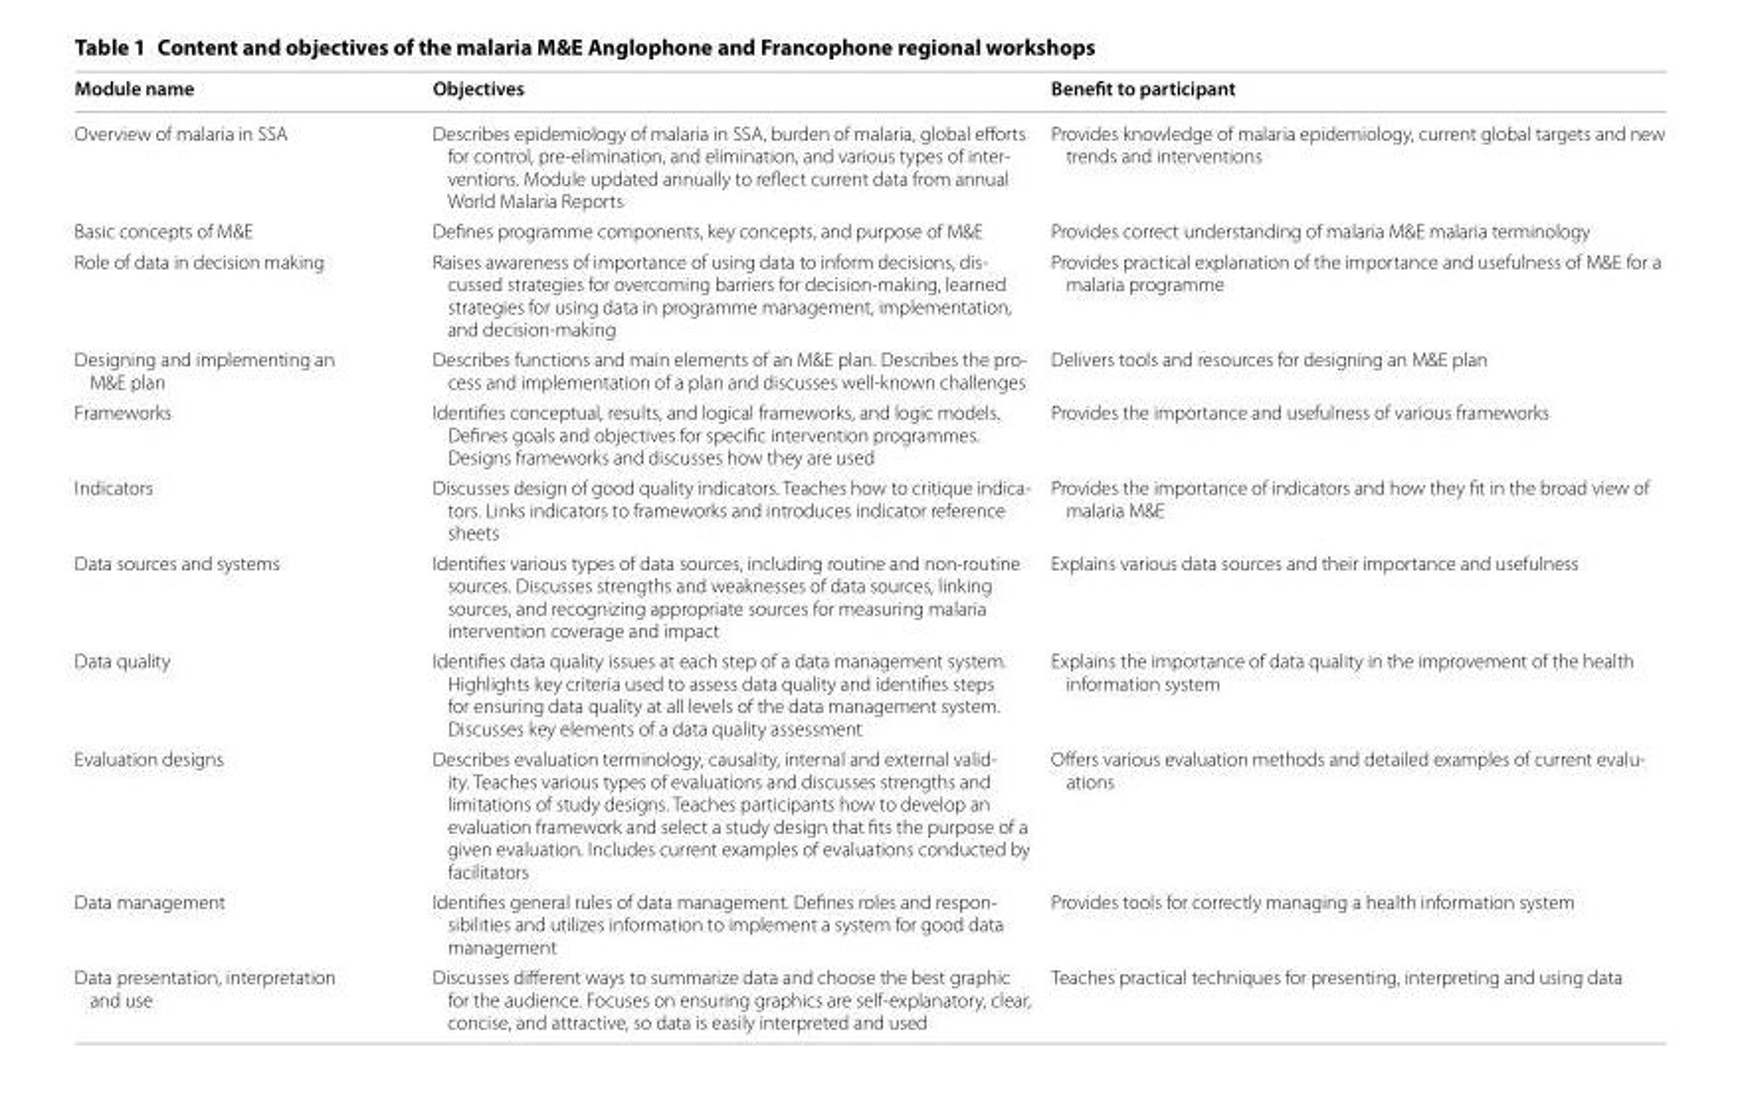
<table><thead><tr><td>Module name</td><td>Objectives</td><td>Benefit to participant</td></tr></thead><tbody><tr><td>Overview of malaria in SSA</td><td>Describes epidemiology of malaria in SSA, burden of malaria, global efforts for control, pre-elimination, and elimination, and various types of inter- ventions. Module updated annually to reflect current data from annual World Malaria Reports</td><td>Provides knowledge of malaria epidemiology, current global targets and new trends and interventions</td></tr><tr><td>Basic concepts of M&amp;E</td><td>Defines programme components, key concepts, and purpose of M&amp;E</td><td>Provides correct understanding of malaria M&amp;E malaria terminology</td></tr><tr><td>Role of data in decision making</td><td>Raises awareness of importance of using data to inform decisions, dis- cussed strategies for overcoming barriers for decision-making, learned strategies for using data in programme management, implementation, and decision-making</td><td>Provides practical explanation of the importance and usefulness of M&amp;E for a malaria programme</td></tr><tr><td>Designing and implementing an M&amp;E plan</td><td>Describes functions and main elements of an M&amp;E plan. Describes the pro- cess and implementation of a plan and discusses well-known challenges</td><td>Delivers tools and resources for designing an M&amp;E plan</td></tr><tr><td>Frameworks</td><td>Identifies conceptual, results, and logical frameworks, and logic models. Defines goals and objectives for specific intervention programmes. Designs frameworks and discusses how they are used</td><td>Provides the importance and usefulness of various frameworks</td></tr><tr><td>Indicators</td><td>Discusses design of good quality indicators. Teaches how to critique indica- tors. Links indicators to frameworks and introduces indicator reference sheets</td><td>Provides the importance of indicators and how they fit in the broad view of malaria M&amp;E</td></tr><tr><td>Data sources and systems</td><td>Identifies various types of data sources, including routine and non-routine sources. Discusses strengths and weaknesses of data sources, linking sources, and recognizing appropriate sources for measuring malaria intervention coverage and impact</td><td>Explains various data sources and their importance and usefulness</td></tr><tr><td>Data quality</td><td>Identifies data quality issues at each step of a data management system. Highlights key criteria used to assess data quality and identifies steps for ensuring data quality at all levels of the data management system. Discusses key elements of a data quality assessment</td><td>Explains the importance of data quality in the improvement of the health information system</td></tr><tr><td>Evaluation designs</td><td>Describes evaluation terminology, causality, internal and external valid- ity. Teaches various types of evaluations and discusses strengths and limitations of study designs. Teaches participants how to develop an evaluation framework and select a study design that fits the purpose of a given evaluation. Includes current examples of evaluations conducted by facilitators</td><td>Offers various evaluation methods and detailed examples of current evalu- ations</td></tr><tr><td>Data management</td><td>Identifies general rules of data management. Defines roles and respon- sibilities and utilizes information to implement a system for good data management</td><td>Provides tools for correctly managing a health information system</td></tr><tr><td>Data presentation, interpretation and use</td><td>Discusses different ways to summarize data and choose the best graphic for the audience. Focuses on ensuring graphics are self-explanatory, clear, concise, and attractive, so data is easily interpreted and used</td><td>Teaches practical techniques for presenting, interpreting and using data</td></tr></tbody></table>